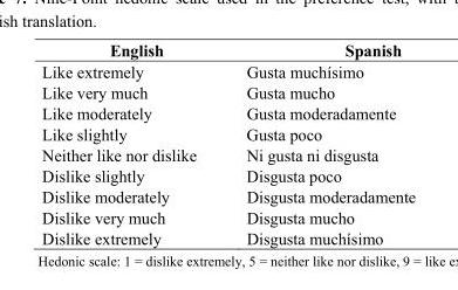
<table><thead><tr><td>English</td><td>Spanish</td></tr></thead><tbody><tr><td>Like extremely</td><td>Gusta muchísimo</td></tr><tr><td>Like very much</td><td>Gusta mucho</td></tr><tr><td>Like moderately</td><td>Gusta moderadamente</td></tr><tr><td>Like slightly</td><td>Gusta poco</td></tr><tr><td>Neither like nor dislike</td><td>Ni gusta ni disgusta</td></tr><tr><td>Dislike slightly</td><td>Disgusta poco</td></tr><tr><td>Dislike moderately</td><td>Disgusta moderadamente</td></tr><tr><td>Dislike very much</td><td>Disgusta mucho</td></tr><tr><td>Dislike extremely</td><td>Disgusta muchísimo</td></tr></tbody></table>